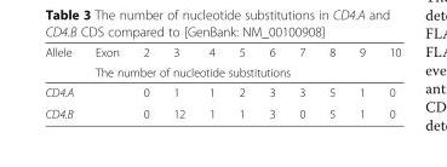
<table><thead><tr><td rowspan="2">Allele</td><td>Exon</td><td>2</td><td>3</td><td>4</td><td>5</td><td>6</td><td>7</td><td>8</td><td>9</td><td>10</td></tr><tr><td colspan="10">The number of nucleotide substitutions</td></tr></thead><tbody><tr><td>CD4.A</td><td></td><td>0</td><td>1</td><td>1</td><td>2</td><td>3</td><td>3</td><td>5</td><td>1</td><td>0</td></tr><tr><td>CD4.B</td><td></td><td>0</td><td>12</td><td>1</td><td>1</td><td>3</td><td>0</td><td>5</td><td>1</td><td>0</td></tr></tbody></table>